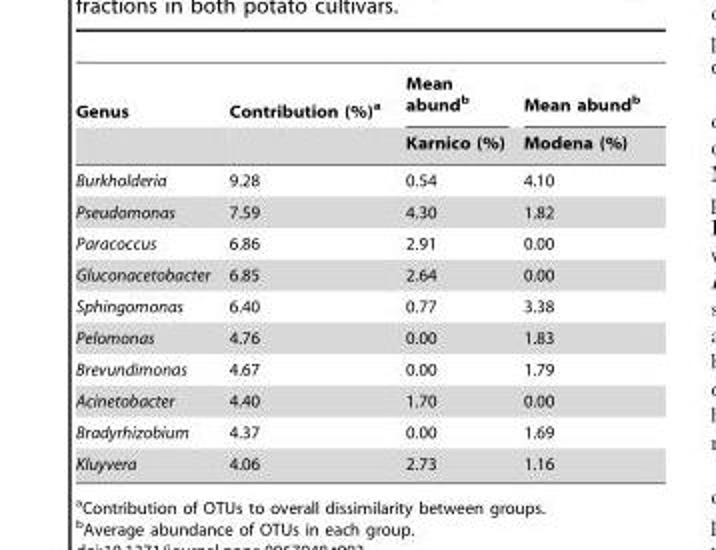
<table><thead><tr><td rowspan="2">Genus</td><td rowspan="2">Contribution (%)<sup>a</sup></td><td rowspan="2">Mean abund<sup>b</sup> Karnico (%)</td><td rowspan="2">Mean abund<sup>b</sup> Modena (%)</td></tr><tr></tr></thead><tbody><tr><td>Burkholderia</td><td>9.28</td><td>0.54</td><td>4.10</td></tr><tr><td>Pseudomonas</td><td>7.59</td><td>4.30</td><td>1.82</td></tr><tr><td>Paracoccus</td><td>6.86</td><td>2.91</td><td>0.00</td></tr><tr><td>Gluconacetobacter</td><td>6.85</td><td>2.64</td><td>0.00</td></tr><tr><td>Sphingomonas</td><td>6.40</td><td>0.77</td><td>3.38</td></tr><tr><td>Pelomonas</td><td>4.76</td><td>0.00</td><td>1.83</td></tr><tr><td>Brevundimonas</td><td>4.67</td><td>0.00</td><td>1.79</td></tr><tr><td>Acinetobacter</td><td>4.40</td><td>1.70</td><td>0.00</td></tr><tr><td>Bradyrhizobium</td><td>4.37</td><td>0.00</td><td>1.69</td></tr><tr><td>Kluyvera</td><td>4.06</td><td>2.73</td><td>1.16</td></tr></tbody></table>